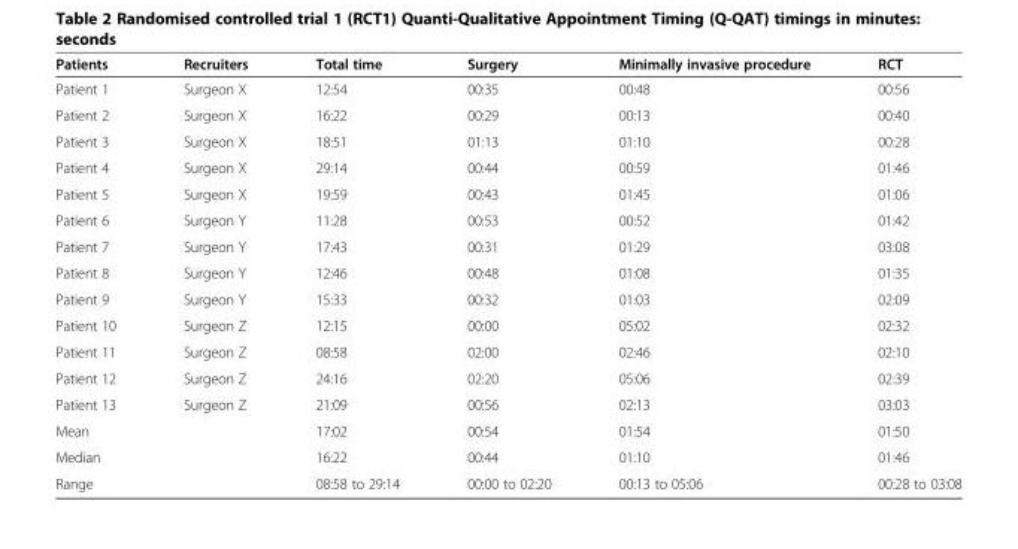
<table><thead><tr><td>Patients</td><td>Recruiters</td><td>Total time</td><td>Surgery</td><td>Minimally invasive procedure</td><td>RCT</td></tr></thead><tbody><tr><td>Patient 1</td><td>Surgeon X</td><td>12:54</td><td>00:35</td><td>00:48</td><td>00:56</td></tr><tr><td>Patient 2</td><td>Surgeon X</td><td>16:22</td><td>00:29</td><td>00:13</td><td>00:40</td></tr><tr><td>Patient 3</td><td>Surgeon X</td><td>18:51</td><td>01:13</td><td>01:10</td><td>00:28</td></tr><tr><td>Patient 4</td><td>Surgeon X</td><td>29:14</td><td>00:44</td><td>00:59</td><td>01:46</td></tr><tr><td>Patient 5</td><td>Surgeon X</td><td>19:59</td><td>00:43</td><td>01:45</td><td>01:06</td></tr><tr><td>Patient 6</td><td>Surgeon Y</td><td>11:28</td><td>00:53</td><td>00:52</td><td>01:42</td></tr><tr><td>Patient 7</td><td>Surgeon Y</td><td>17:43</td><td>00:31</td><td>01:29</td><td>03:08</td></tr><tr><td>Patient 8</td><td>Surgeon Y</td><td>12:46</td><td>00:48</td><td>01:08</td><td>01:35</td></tr><tr><td>Patient 9</td><td>Surgeon Y</td><td>15:33</td><td>00:32</td><td>01:03</td><td>02:09</td></tr><tr><td>Patient 10</td><td>Surgeon Z</td><td>12:15</td><td>00:00</td><td>05:02</td><td>02:32</td></tr><tr><td>Patient 11</td><td>Surgeon Z</td><td>08:58</td><td>02:00</td><td>02:46</td><td>02:10</td></tr><tr><td>Patient 12</td><td>Surgeon Z</td><td>24:16</td><td>02:20</td><td>05:06</td><td>02:39</td></tr><tr><td>Patient 13</td><td>Surgeon Z</td><td>21:09</td><td>00:56</td><td>02:13</td><td>03:03</td></tr><tr><td colspan="2">Mean</td><td>17:02</td><td>00:54</td><td>01:54</td><td>01:50</td></tr><tr><td colspan="2">Median</td><td>16:22</td><td>00:44</td><td>01:10</td><td>01:46</td></tr><tr><td colspan="2">Range</td><td>08:58 to 29:14</td><td>00:00 to 02:20</td><td>00:13 to 05:06</td><td>00:28 to 03:08</td></tr></tbody></table>